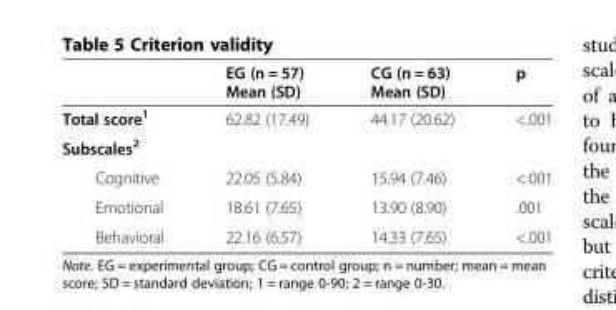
<table><thead><tr><td></td><td>EG (n = 57) Mean (SD)</td><td>CG (n = 63) Mean (SD)</td><td>p</td></tr></thead><tbody><tr><td>Total score<sup>1</sup></td><td>62.82 (17.49)</td><td>44.17 (20.62)</td><td>&lt;.001</td></tr><tr><td colspan="4">Subscales<sup>2</sup></td></tr><tr><td>Cognitive</td><td>22.05 (5.84)</td><td>15.94 (7.46)</td><td>&lt;.001</td></tr><tr><td>Emotional</td><td>18.61 (7.65)</td><td>13.90 (8.90)</td><td>.001</td></tr><tr><td>Behavioral</td><td>22.16 (6.57)</td><td>14.33 (7.65)</td><td>&lt;.001</td></tr></tbody></table>